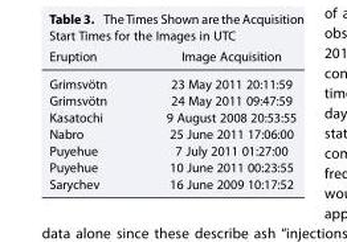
<table><thead><tr><td>Eruption</td><td>Image Acquisition</td></tr></thead><tbody><tr><td>Grimsvötn</td><td>23 May 2011 20:11:59</td></tr><tr><td>Grimsvötn</td><td>24 May 2011 09:47:59</td></tr><tr><td>Kasatochi</td><td>9 August 2008 20:53:55</td></tr><tr><td>Nabro</td><td>25 June 2011 17:06:00</td></tr><tr><td>Puyehue</td><td>7 July 2011 01:27:00</td></tr><tr><td>Puyehue</td><td>10 June 2011 00:23:55</td></tr><tr><td>Sarychev</td><td>16 June 2009 10:17:52</td></tr></tbody></table>